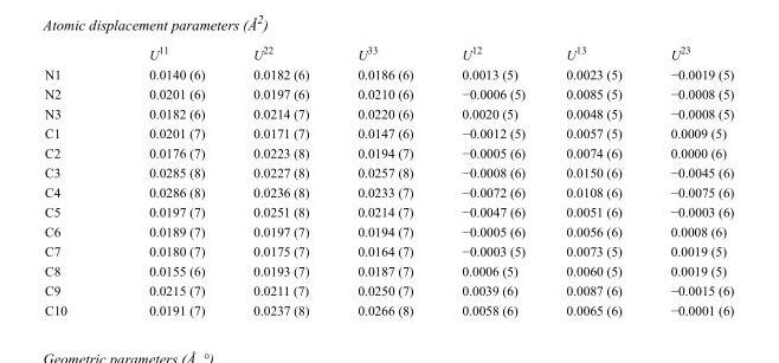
<table><thead><tr><td></td><td>U<sup>11</sup></td><td>U<sup>22</sup></td><td>U<sup>33</sup></td><td>U<sup>12</sup></td><td>U<sup>13</sup></td><td>U<sup>23</sup></td></tr></thead><tbody><tr><td>N1</td><td>0.0140 (6)</td><td>0.0182 (6)</td><td>0.0186 (6)</td><td>0.0013 (5)</td><td>0.0023 (5)</td><td>−0.0019 (5)</td></tr><tr><td>N2</td><td>0.0201 (6)</td><td>0.0197 (6)</td><td>0.0210 (6)</td><td>−0.0006 (5)</td><td>0.0085 (5)</td><td>−0.0008 (5)</td></tr><tr><td>N3</td><td>0.0182 (6)</td><td>0.0214 (7)</td><td>0.0220 (6)</td><td>0.0020 (5)</td><td>0.0048 (5)</td><td>−0.0008 (5)</td></tr><tr><td>C1</td><td>0.0201 (7)</td><td>0.0171 (7)</td><td>0.0147 (6)</td><td>−0.0012 (5)</td><td>0.0057 (5)</td><td>0.0009 (5)</td></tr><tr><td>C2</td><td>0.0176 (7)</td><td>0.0223 (8)</td><td>0.0194 (7)</td><td>−0.0005 (6)</td><td>0.0074 (6)</td><td>0.0000 (6)</td></tr><tr><td>C3</td><td>0.0285 (8)</td><td>0.0227 (8)</td><td>0.0257 (8)</td><td>−0.0008 (6)</td><td>0.0150 (6)</td><td>−0.0045 (6)</td></tr><tr><td>C4</td><td>0.0286 (8)</td><td>0.0236 (8)</td><td>0.0233 (7)</td><td>−0.0072 (6)</td><td>0.0108 (6)</td><td>−0.0075 (6)</td></tr><tr><td>C5</td><td>0.0197 (7)</td><td>0.0251 (8)</td><td>0.0214 (7)</td><td>−0.0047 (6)</td><td>0.0051 (6)</td><td>−0.0003 (6)</td></tr><tr><td>C6</td><td>0.0189 (7)</td><td>0.0197 (7)</td><td>0.0194 (7)</td><td>−0.0005 (6)</td><td>0.0056 (6)</td><td>0.0008 (6)</td></tr><tr><td>C7</td><td>0.0180 (7)</td><td>0.0175 (7)</td><td>0.0164 (7)</td><td>−0.0003 (5)</td><td>0.0073 (5)</td><td>0.0019 (5)</td></tr><tr><td>C8</td><td>0.0155 (6)</td><td>0.0193 (7)</td><td>0.0187 (7)</td><td>0.0006 (5)</td><td>0.0060 (5)</td><td>0.0019 (5)</td></tr><tr><td>C9</td><td>0.0215 (7)</td><td>0.0211 (7)</td><td>0.0250 (7)</td><td>0.0039 (6)</td><td>0.0087 (6)</td><td>−0.0015 (6)</td></tr><tr><td>C10</td><td>0.0191 (7)</td><td>0.0237 (8)</td><td>0.0266 (8)</td><td>0.0058 (6)</td><td>0.0065 (6)</td><td>−0.0001 (6)</td></tr></tbody></table>